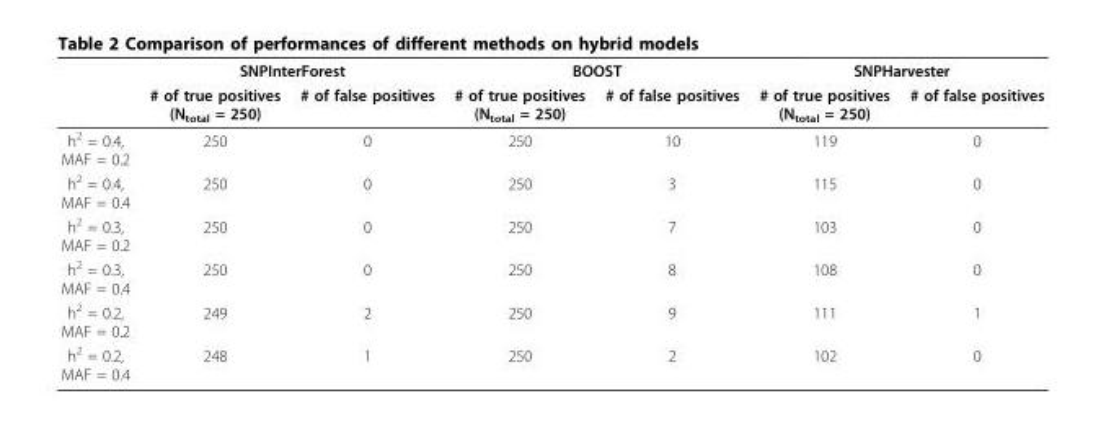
<table><thead><tr><td rowspan="2"></td><td colspan="2">SNPInterForest</td><td colspan="2">BOOST</td><td colspan="2">SNPHarvester</td></tr><tr><td># of true positives (N<sub>total</sub> = 250)</td><td># of false positives</td><td># of true positives (N<sub>total</sub> = 250)</td><td># of false positives</td><td># of true positives (N<sub>total</sub> = 250)</td><td># of false positives</td></tr></thead><tbody><tr><td>h<sup>2</sup> = 0.4, MAF = 0.2</td><td>250</td><td>0</td><td>250</td><td>10</td><td>119</td><td>0</td></tr><tr><td>h<sup>2</sup> = 0.4, MAF = 0.4</td><td>250</td><td>0</td><td>250</td><td>3</td><td>115</td><td>0</td></tr><tr><td>h<sup>2</sup> = 0.3, MAF = 0.2</td><td>250</td><td>0</td><td>250</td><td>7</td><td>103</td><td>0</td></tr><tr><td>h<sup>2</sup> = 0.3, MAF = 0.4</td><td>250</td><td>0</td><td>250</td><td>8</td><td>108</td><td>0</td></tr><tr><td>h<sup>2</sup> = 0.2, MAF = 0.2</td><td>249</td><td>2</td><td>250</td><td>9</td><td>111</td><td>1</td></tr><tr><td>h<sup>2</sup> = 0.2, MAF = 0.4</td><td>248</td><td>1</td><td>250</td><td>2</td><td>102</td><td>0</td></tr></tbody></table>